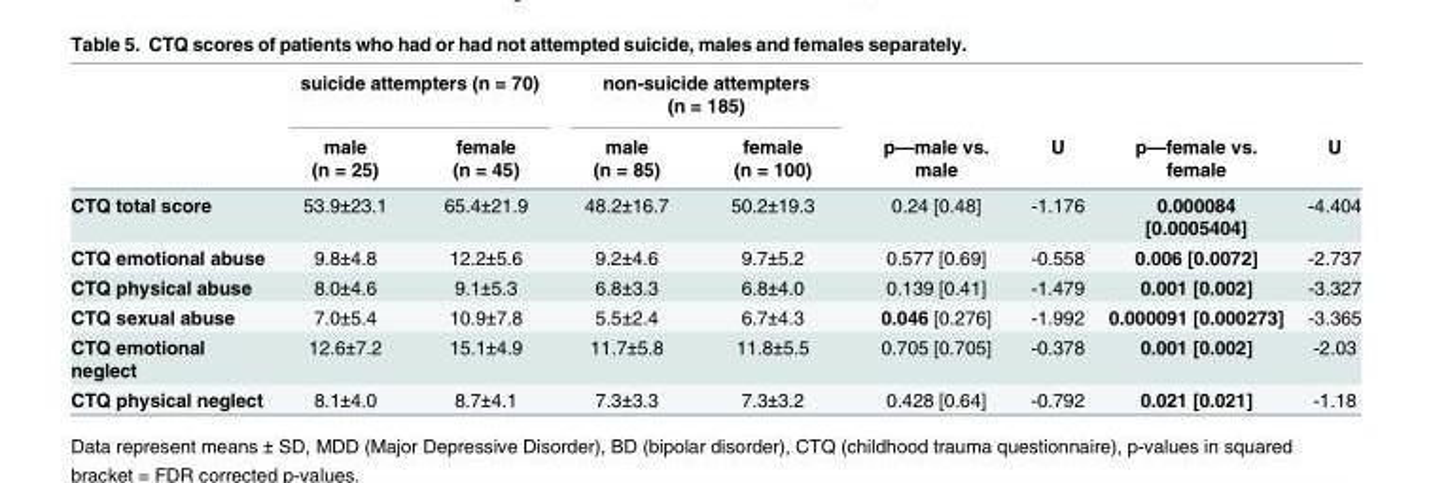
<table><thead><tr><td rowspan="2"></td><td colspan="2">suicide attempters (n = 70)</td><td colspan="2">non-suicide attempters (n = 185)</td><td rowspan="2">p—male vs. male</td><td rowspan="2">U</td><td rowspan="2">p—female vs. female</td><td rowspan="2">U</td></tr><tr><td>male (n = 25)</td><td>female (n = 45)</td><td>male (n = 85)</td><td>female (n = 100)</td></tr></thead><tbody><tr><td>CTQ total score</td><td>53.9±23.1</td><td>65.4±21.9</td><td>48.2±16.7</td><td>50.2±19.3</td><td>0.24 [0.48]</td><td>-1.176</td><td>0.000084 [0.0005404]</td><td>-4.404</td></tr><tr><td>CTQ emotional abuse</td><td>9.8±4.8</td><td>12.2±5.6</td><td>9.2±4.6</td><td>9.7±5.2</td><td>0.577 [0.69]</td><td>-0.558</td><td>0.006 [0.0072]</td><td>-2.737</td></tr><tr><td>CTQ physical abuse</td><td>8.0±4.6</td><td>9.1±5.3</td><td>6.8±3.3</td><td>6.8±4.0</td><td>0.139 [0.41]</td><td>-1.479</td><td>0.001 [0.002]</td><td>-3.327</td></tr><tr><td>CTQ sexual abuse</td><td>7.0±5.4</td><td>10.9±7.8</td><td>5.5±2.4</td><td>6.7±4.3</td><td>0.046 [0.276]</td><td>-1.992</td><td>0.000091 [0.000273]</td><td>-3.365</td></tr><tr><td>CTQ emotional neglect</td><td>12.6±7.2</td><td>15.1±4.9</td><td>11.7±5.8</td><td>11.8±5.5</td><td>0.705 [0.705]</td><td>-0.378</td><td>0.001 [0.002]</td><td>-2.03</td></tr><tr><td>CTQ physical neglect</td><td>8.1±4.0</td><td>8.7±4.1</td><td>7.3±3.3</td><td>7.3±3.2</td><td>0.428 [0.64]</td><td>-0.792</td><td>0.021 [0.021]</td><td>-1.18</td></tr></tbody></table>